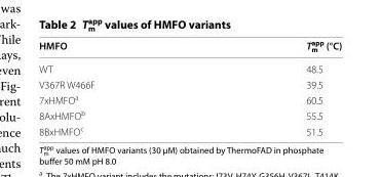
<table><thead><tr><td>HMFO</td><td>T<sub>m</sub> <sup>app</sup> (°C)</td></tr></thead><tbody><tr><td>WT</td><td>48.5</td></tr><tr><td>V367R W466F</td><td>39.5</td></tr><tr><td>7xHMFO<sup>a</sup></td><td>60.5</td></tr><tr><td>8AxHMFO<sup>b</sup></td><td>55.5</td></tr><tr><td>8BxHMFO<sup>c</sup></td><td>51.5</td></tr></tbody></table>